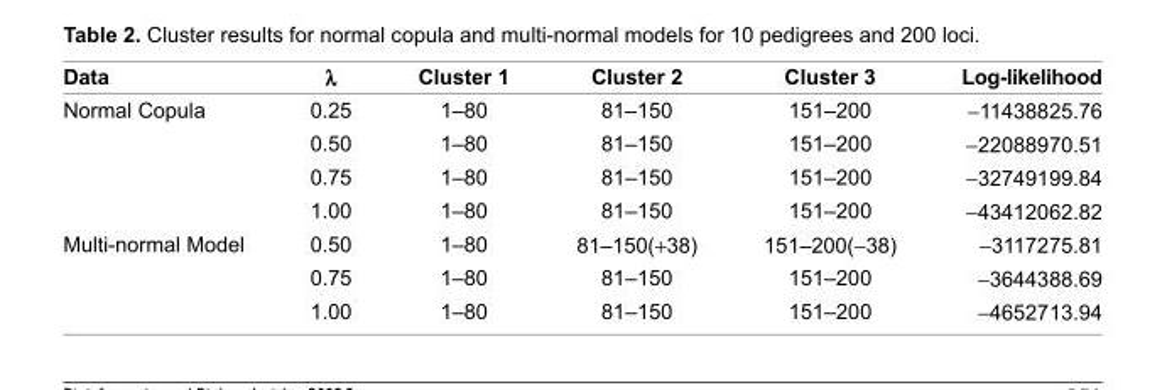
<table><thead><tr><td>Data</td><td>λ</td><td>Cluster 1</td><td>Cluster 2</td><td>Cluster 3</td><td>Log-likelihood</td></tr></thead><tbody><tr><td rowspan="4">Normal Copula</td><td>0.25</td><td>1–80</td><td>81–150</td><td>151–200</td><td>−11438825.76</td></tr><tr><td>0.50</td><td>1–80</td><td>81–150</td><td>151–200</td><td>−22088970.51</td></tr><tr><td>0.75</td><td>1–80</td><td>81–150</td><td>151–200</td><td>−32749199.84</td></tr><tr><td>1.00</td><td>1–80</td><td>81–150</td><td>151–200</td><td>−43412062.82</td></tr><tr><td rowspan="3">Multi-normal Model</td><td>0.50</td><td>1–80</td><td>81–150(+38)</td><td>151–200(−38)</td><td>−3117275.81</td></tr><tr><td>0.75</td><td>1–80</td><td>81–150</td><td>151–200</td><td>−3644388.69</td></tr><tr><td>1.00</td><td>1–80</td><td>81–150</td><td>151–200</td><td>−4652713.94</td></tr></tbody></table>